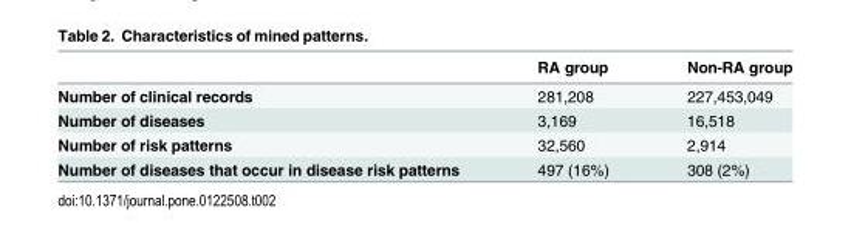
<table><thead><tr><td></td><td>RA group</td><td>Non-RA group</td></tr></thead><tbody><tr><td>Number of clinical records</td><td>281,208</td><td>227,453,049</td></tr><tr><td>Number of diseases</td><td>3,169</td><td>16,518</td></tr><tr><td>Number of risk patterns</td><td>32,560</td><td>2,914</td></tr><tr><td>Number of diseases that occur in disease risk patterns</td><td>497 (16%)</td><td>308 (2%)</td></tr></tbody></table>